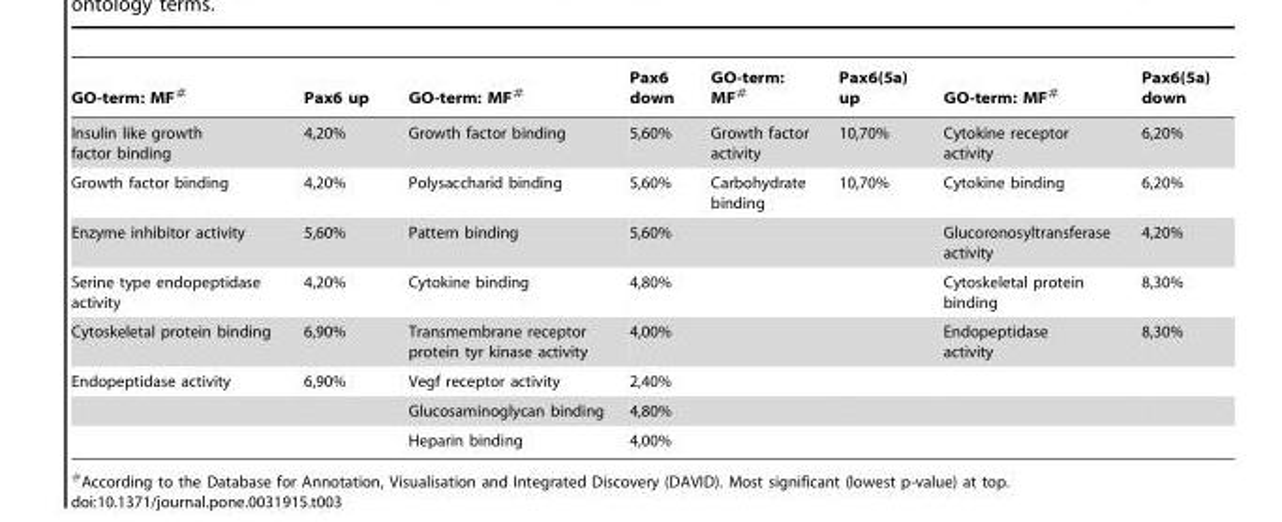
<table><thead><tr><td>GO-term: MF#</td><td>Pax6 up</td><td>GO-term: MF#</td><td>Pax6 down</td><td>GO-term: MF#</td><td>Pax6(5a) up</td><td>GO-term: MF#</td><td>Pax6(5a) down</td></tr></thead><tbody><tr><td>Insulin like growth factor binding</td><td>4,20%</td><td>Growth factor binding</td><td>5,60%</td><td>Growth factor activity</td><td>10,70%</td><td>Cytokine receptor activity</td><td>6,20%</td></tr><tr><td>Growth factor binding</td><td>4,20%</td><td>Polysaccharid binding</td><td>5,60%</td><td>Carbohydrate binding</td><td>10,70%</td><td>Cytokine binding</td><td>6,20%</td></tr><tr><td>Enzyme inhibitor activity</td><td>5,60%</td><td>Pattern binding</td><td>5,60%</td><td></td><td></td><td>Glucoronosyltransferase activity</td><td>4,20%</td></tr><tr><td>Serine type endopeptidase activity</td><td>4,20%</td><td>Cytokine binding</td><td>4,80%</td><td></td><td></td><td>Cytoskeletal protein binding</td><td>8,30%</td></tr><tr><td>Cytoskeletal protein binding</td><td>6,90%</td><td>Transmembrane receptor protein tyr kinase activity</td><td>4,00%</td><td></td><td></td><td>Endopeptidase activity</td><td>8,30%</td></tr><tr><td rowspan="3">Endopeptidase activity</td><td>6,90%</td><td>Vegf receptor activity</td><td>2,40%</td><td></td><td></td><td></td><td></td></tr><tr><td></td><td>Glucosaminoglycan binding</td><td>4,80%</td><td></td><td></td><td></td><td></td></tr><tr><td></td><td>Heparin binding</td><td>4,00%</td><td></td><td></td><td></td><td></td></tr></tbody></table>